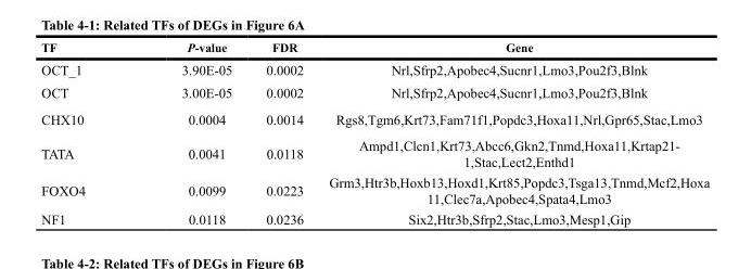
<table><thead><tr><td>tF</td><td>P-value</td><td>Fdr</td><td>Gene</td></tr></thead><tbody><tr><td>OCT_1</td><td>3.90E-05</td><td>0.0002</td><td>Nrl,Sfrp2,Apobec4,Sucnr1,Lmo3,Pou2f3,Blnk</td></tr><tr><td>OCT</td><td>3.00E-05</td><td>0.0002</td><td>Nrl,Sfrp2,Apobec4,Sucnr1,Lmo3,Pou2f3,Blnk</td></tr><tr><td>CHX10</td><td>0.0004</td><td>0.0014</td><td>Rgs8,Tgm6,Krt73,Fam71f1,Popdc3,Hoxa11,Nrl,Gpr65,Stac,Lmo3</td></tr><tr><td>TATA</td><td>0.0041</td><td>0.0118</td><td>Ampd1,Clcn1,Krt73,Abcc6,Gkn2,Tnmd,Hoxa11,Krtap21- 1,Stac,Lect2,Enthd1</td></tr><tr><td>FOXO4</td><td>0.0099</td><td>0.0223</td><td>Grm3,Htr3b,Hoxb13,Hoxd1,Krt85,Popdc3,Tsga13,Tnmd,Mcf2,Hoxa 11,Clec7a,Apobec4,Spata4,Lmo3</td></tr><tr><td>NF1</td><td>0.0118</td><td>0.0236</td><td>Six2,Htr3b,Sfrp2,Stac,Lmo3,Mesp1,Gip</td></tr></tbody></table>